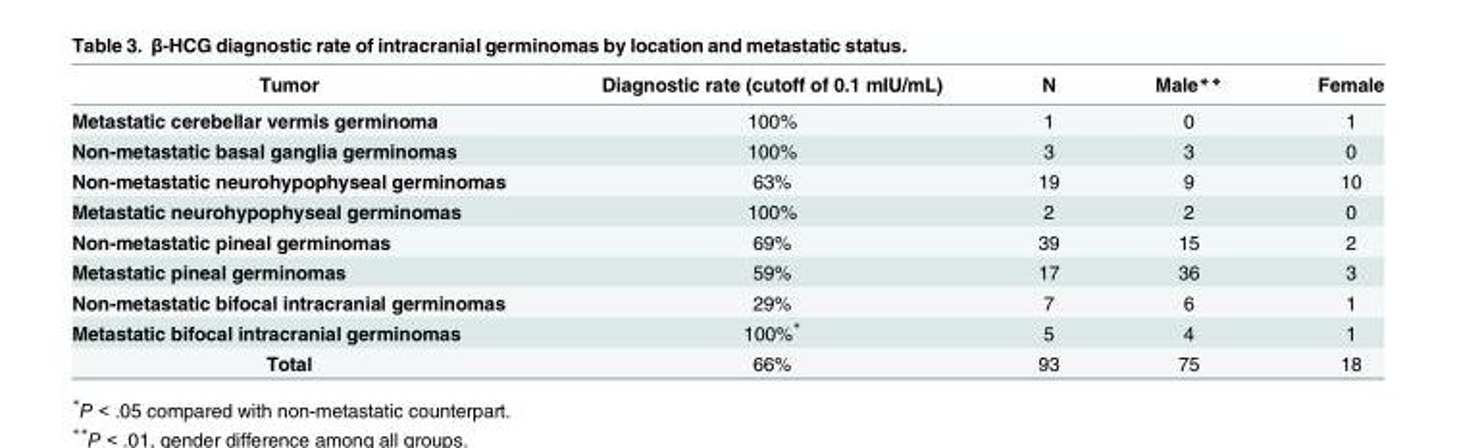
<table><thead><tr><td>Tumor</td><td>Diagnostic rate (cutoff of 0.1 mIU/mL)</td><td>N</td><td>Male**</td><td>Female</td></tr></thead><tbody><tr><td>Metastatic cerebellar vermis germinoma</td><td>100%</td><td>1</td><td>0</td><td>1</td></tr><tr><td>Non-metastatic basal ganglia germinomas</td><td>100%</td><td>3</td><td>3</td><td>0</td></tr><tr><td>Non-metastatic neurohypophyseal germinomas</td><td>63%</td><td>19</td><td>9</td><td>10</td></tr><tr><td>Metastatic neurohypophyseal germinomas</td><td>100%</td><td>2</td><td>2</td><td>0</td></tr><tr><td>Non-metastatic pineal germinomas</td><td>69%</td><td>39</td><td>15</td><td>2</td></tr><tr><td>Metastatic pineal germinomas</td><td>59%</td><td>17</td><td>36</td><td>3</td></tr><tr><td>Non-metastatic bifocal intracranial germinomas</td><td>29%</td><td>7</td><td>6</td><td>1</td></tr><tr><td>Metastatic bifocal intracranial germinomas</td><td>100%*</td><td>5</td><td>4</td><td>1</td></tr><tr><td>Total</td><td>66%</td><td>93</td><td>75</td><td>18</td></tr></tbody></table>